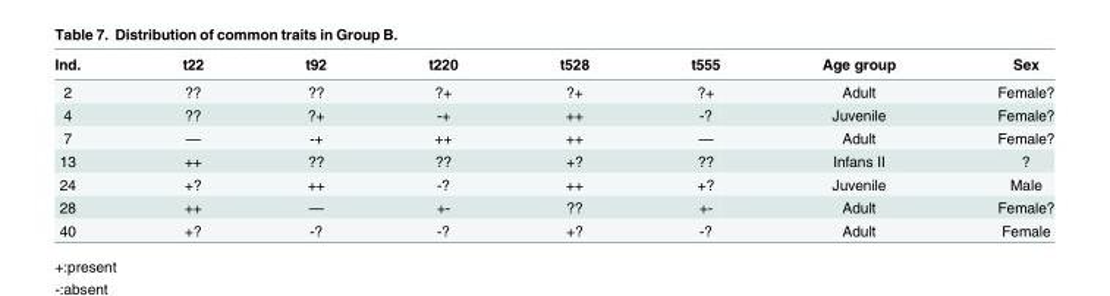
<table><thead><tr><td>Ind.</td><td>t22</td><td>t92</td><td>t220</td><td>t528</td><td>t555</td><td>Age group</td><td>Sex</td></tr></thead><tbody><tr><td>2</td><td>??</td><td>??</td><td>?+</td><td>?+</td><td>?+</td><td>Adult</td><td>Female?</td></tr><tr><td>4</td><td>??</td><td>?+</td><td>-+</td><td>++</td><td>-?</td><td>Juvenile</td><td>Female?</td></tr><tr><td>7</td><td>—</td><td>-+</td><td>++</td><td>++</td><td>—</td><td>Adult</td><td>Female?</td></tr><tr><td>13</td><td>++</td><td>??</td><td>??</td><td>+?</td><td>??</td><td>Infans II</td><td>?</td></tr><tr><td>24</td><td>+?</td><td>++</td><td>-?</td><td>++</td><td>+?</td><td>Juvenile</td><td>Male</td></tr><tr><td>28</td><td>++</td><td>—</td><td>+-</td><td>??</td><td>+-</td><td>Adult</td><td>Female?</td></tr><tr><td>40</td><td>+?</td><td>-?</td><td>-?</td><td>+?</td><td>-?</td><td>Adult</td><td>Female</td></tr></tbody></table>